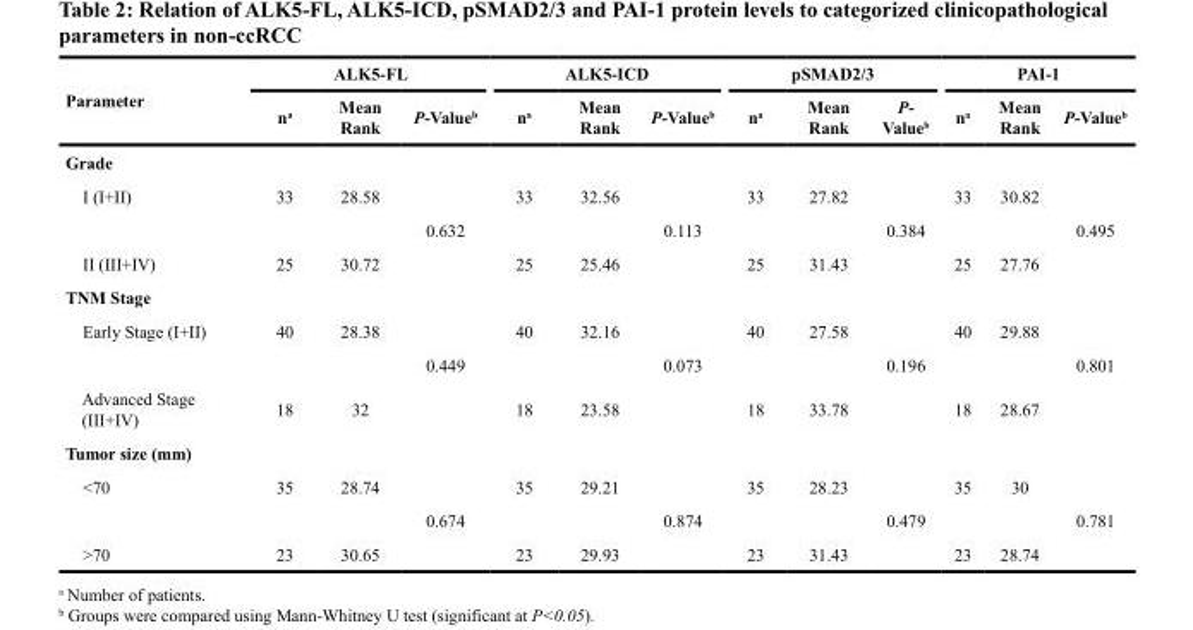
<table><thead><tr><td rowspan="2">Parameter</td><td colspan="3">ALK5-FL</td><td colspan="3">ALK5-ICD</td><td colspan="3">pSMAD2/3</td><td colspan="3">PAI-1</td></tr><tr><td>n<sup>a</sup></td><td>Mean Rank</td><td>P-Value<sup>b</sup></td><td>n<sup>a</sup></td><td>Mean Rank</td><td>P-Value<sup>b</sup></td><td>n<sup>a</sup></td><td>Mean Rank</td><td>P- Value<sup>b</sup></td><td>n<sup>a</sup></td><td>Mean Rank</td><td>P-Value<sup>b</sup></td></tr></thead><tbody><tr><td colspan="13">Grade</td></tr><tr><td rowspan="2">I (I+II)</td><td>33</td><td>28.58</td><td></td><td>33</td><td>32.56</td><td></td><td>33</td><td>27.82</td><td></td><td>33</td><td>30.82</td><td></td></tr><tr><td></td><td></td><td>0.632</td><td></td><td></td><td>0.113</td><td></td><td></td><td>0.384</td><td></td><td></td><td>0.495</td></tr><tr><td>II (III+IV)</td><td>25</td><td>30.72</td><td></td><td>25</td><td>25.46</td><td></td><td>25</td><td>31.43</td><td></td><td>25</td><td>27.76</td><td></td></tr><tr><td colspan="13">TNM Stage</td></tr><tr><td rowspan="2">Early Stage (I+II)</td><td>40</td><td>28.38</td><td></td><td>40</td><td>32.16</td><td></td><td>40</td><td>27.58</td><td></td><td>40</td><td>29.88</td><td></td></tr><tr><td></td><td></td><td>0.449</td><td></td><td></td><td>0.073</td><td></td><td></td><td>0.196</td><td></td><td></td><td>0.801</td></tr><tr><td>Advanced Stage (III+IV)</td><td>18</td><td>32</td><td></td><td>18</td><td>23.58</td><td></td><td>18</td><td>33.78</td><td></td><td>18</td><td>28.67</td><td></td></tr><tr><td colspan="13">Tumor size (mm)</td></tr><tr><td rowspan="2">&lt;70</td><td>35</td><td>28.74</td><td></td><td>35</td><td>29.21</td><td></td><td>35</td><td>28.23</td><td></td><td>35</td><td>30</td><td></td></tr><tr><td></td><td></td><td>0.674</td><td></td><td></td><td>0.874</td><td></td><td></td><td>0.479</td><td></td><td></td><td>0.781</td></tr><tr><td>&gt;70</td><td>23</td><td>30.65</td><td></td><td>23</td><td>29.93</td><td></td><td>23</td><td>31.43</td><td></td><td>23</td><td>28.74</td><td></td></tr></tbody></table>